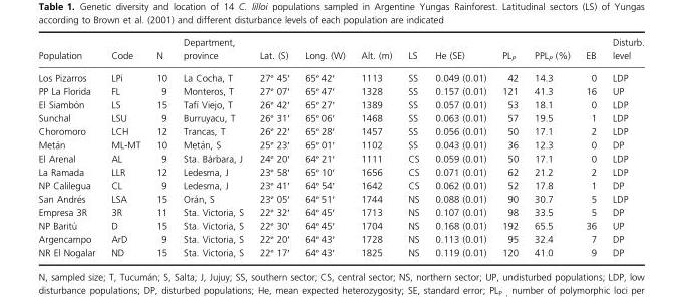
<table><thead><tr><td>Population</td><td>Code</td><td>N</td><td>Department, province</td><td>Lat. (S)</td><td>Long. (W)</td><td>Alt. (m)</td><td>LS</td><td>He (SE)</td><td>PL<sub>P</sub></td><td>PPL<sub>P</sub> (%)</td><td>EB</td><td>Disturb. level</td></tr></thead><tbody><tr><td>Los Pizarros</td><td>LPi</td><td>10</td><td>La Cocha, T</td><td>27º 45′</td><td>65º 42′</td><td>1113</td><td>SS</td><td>0.049 (0.01)</td><td>42</td><td>14.3</td><td>0</td><td>LDP</td></tr><tr><td>PP La Florida</td><td>FL</td><td>9</td><td>Monteros, T</td><td>27º 07′</td><td>65º 47′</td><td>1328</td><td>SS</td><td>0.157 (0.01)</td><td>121</td><td>41.3</td><td>16</td><td>UP</td></tr><tr><td>El Siambo´ n</td><td>LS</td><td>15</td><td>Tafı´ Viejo, T</td><td>26º 42′</td><td>65º 27′</td><td>1389</td><td>SS</td><td>0.057 (0.01)</td><td>53</td><td>18.1</td><td>0</td><td>LDP</td></tr><tr><td>Sunchal</td><td>LSU</td><td>9</td><td>Burruyacu, T</td><td>26º 31′</td><td>65º 06′</td><td>1468</td><td>SS</td><td>0.063 (0.01)</td><td>57</td><td>19.5</td><td>1</td><td>LDP</td></tr><tr><td>Choromoro</td><td>LCH</td><td>12</td><td>Trancas, T</td><td>26º 22′</td><td>65º 28′</td><td>1457</td><td>SS</td><td>0.056 (0.01)</td><td>50</td><td>17.1</td><td>2</td><td>LDP</td></tr><tr><td>Meta´n</td><td>ML-MT</td><td>10</td><td>Meta´n, S</td><td>25º 23′</td><td>65º 01′</td><td>1102</td><td>SS</td><td>0.043 (0.01)</td><td>36</td><td>12.3</td><td>0</td><td>DP</td></tr><tr><td>El Arenal</td><td>AL</td><td>9</td><td>Sta. Ba´rbara, J</td><td>24º 20′</td><td>64º 21′</td><td>1111</td><td>CS</td><td>0.059 (0.01)</td><td>50</td><td>17.1</td><td>0</td><td>LDP</td></tr><tr><td>La Ramada</td><td>LLR</td><td>12</td><td>Ledesma, J</td><td>23º 58′</td><td>65º 10′</td><td>1656</td><td>CS</td><td>0.071 (0.01)</td><td>62</td><td>21.2</td><td>2</td><td>LDP</td></tr><tr><td>NP Calilegua</td><td>CL</td><td>9</td><td>Ledesma, J</td><td>23º 41′</td><td>64º 54′</td><td>1642</td><td>CS</td><td>0.062 (0.01)</td><td>52</td><td>17.8</td><td>1</td><td>DP</td></tr><tr><td>San Andre´s</td><td>LSA</td><td>15</td><td>Ora´n, S</td><td>23º 05′</td><td>64º 51′</td><td>1744</td><td>NS</td><td>0.088 (0.01)</td><td>90</td><td>30.7</td><td>5</td><td>LDP</td></tr><tr><td>Empresa 3R</td><td>3R</td><td>11</td><td>Sta. Victoria, S</td><td>22º 32′</td><td>64º 45′</td><td>1713</td><td>NS</td><td>0.107 (0.01)</td><td>98</td><td>33.5</td><td>5</td><td>DP</td></tr><tr><td>NP Baritu´</td><td>D</td><td>15</td><td>Sta. Victoria, S</td><td>22º 30′</td><td>64º 45′</td><td>1704</td><td>NS</td><td>0.168 (0.01)</td><td>192</td><td>65.5</td><td>36</td><td>UP</td></tr><tr><td>Argencampo</td><td>ArD</td><td>9</td><td>Sta. Victoria, S</td><td>22º 20′</td><td>64º 43′</td><td>1728</td><td>NS</td><td>0.113 (0.01)</td><td>95</td><td>32.4</td><td>7</td><td>DP</td></tr><tr><td>NR El Nogalar</td><td>ND</td><td>15</td><td>Sta. Victoria, S</td><td>22º 17′</td><td>64º 43′</td><td>1825</td><td>NS</td><td>0.119 (0.01)</td><td>120</td><td>41.0</td><td>9</td><td>DP</td></tr></tbody></table>